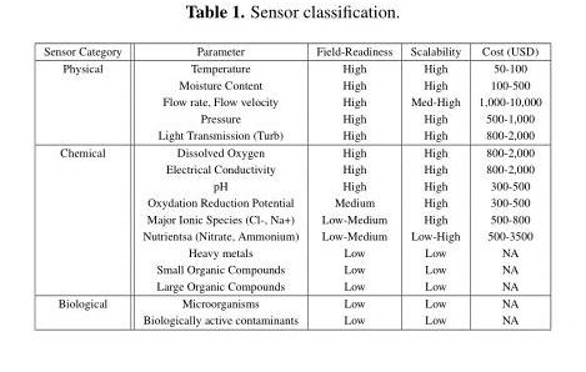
<table><thead><tr><td>Sensor Category</td><td>Parameter</td><td>Field-Readiness</td><td>Scalability</td><td>Cost (USD)</td></tr></thead><tbody><tr><td rowspan="5">Physical</td><td>Temperature</td><td>High</td><td>High</td><td>50-100</td></tr><tr><td>Moisture Content</td><td>High</td><td>High</td><td>100-500</td></tr><tr><td>Flow rate, Flow velocity</td><td>High</td><td>Med-High</td><td>1,000-10,000</td></tr><tr><td>Pressure</td><td>High</td><td>High</td><td>500-1,000</td></tr><tr><td>Light Transmission (Turb)</td><td>High</td><td>High</td><td>800-2,000</td></tr><tr><td rowspan="9">Chemical</td><td>Dissolved Oxygen</td><td>High</td><td>High</td><td>800-2,000</td></tr><tr><td>Electrical Conductivity</td><td>High</td><td>High</td><td>800-2,000</td></tr><tr><td>pH</td><td>High</td><td>High</td><td>300-500</td></tr><tr><td>Oxydation Reduction Potential</td><td>Medium</td><td>High</td><td>300-500</td></tr><tr><td>Major Ionic Species (Cl-, Na+)</td><td>Low-Medium</td><td>High</td><td>500-800</td></tr><tr><td>Nutrientsa (Nitrate, Ammonium)</td><td>Low-Medium</td><td>Low-High</td><td>500-3500</td></tr><tr><td>Heavy metals</td><td>Low</td><td>Low</td><td>NA</td></tr><tr><td>Small Organic Compounds</td><td>Low</td><td>Low</td><td>NA</td></tr><tr><td>Large Organic Compounds</td><td>Low</td><td>Low</td><td>NA</td></tr><tr><td rowspan="2">Biological</td><td>Microorganisms</td><td>Low</td><td>Low</td><td>NA</td></tr><tr><td>Biologically active contaminants</td><td>Low</td><td>Low</td><td>NA</td></tr></tbody></table>